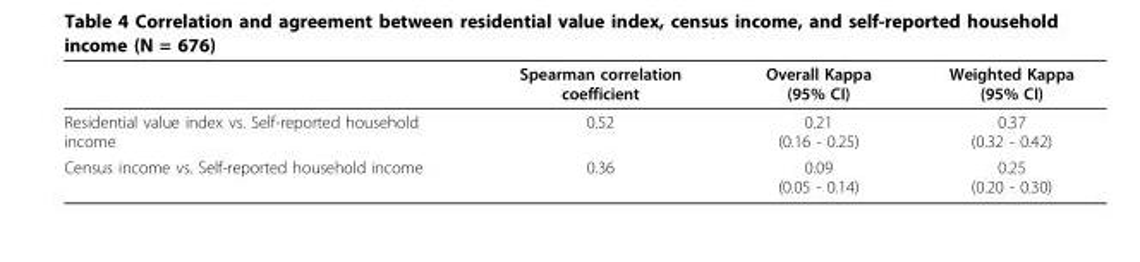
<table><thead><tr><td></td><td>Spearman correlation coefficient</td><td>Overall Kappa (95% CI)</td><td>Weighted Kappa (95% CI)</td></tr></thead><tbody><tr><td>Residential value index vs. Self-reported household income</td><td>0.52</td><td>0.21 (0.16 - 0.25)</td><td>0.37 (0.32 - 0.42)</td></tr><tr><td>Census income vs. Self-reported household income</td><td>0.36</td><td>0.09 (0.05 - 0.14)</td><td>0.25 (0.20 - 0.30)</td></tr></tbody></table>